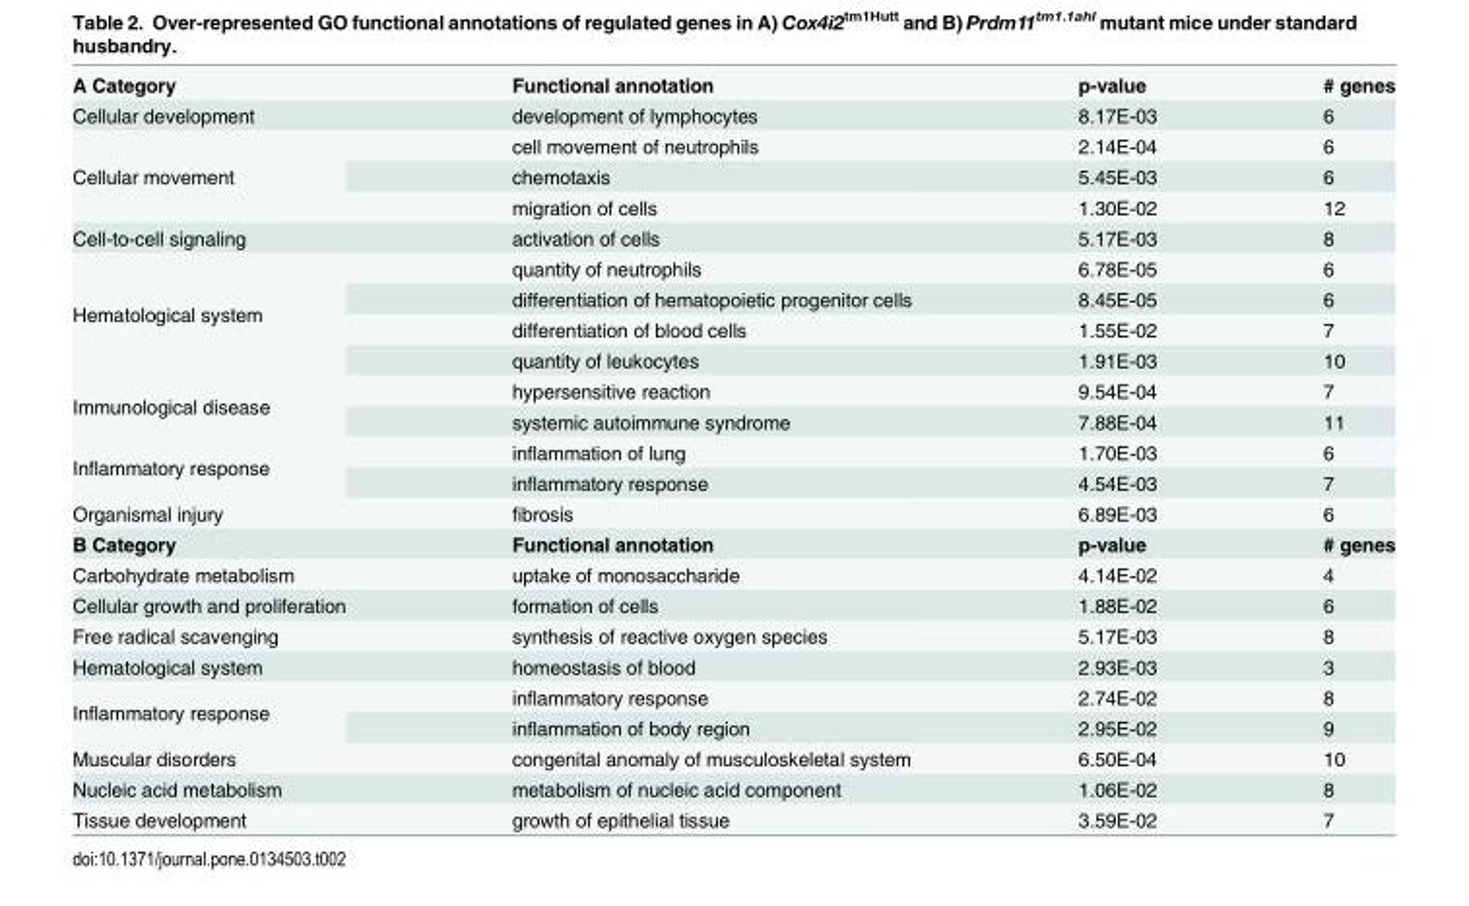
<table><tbody><tr><td>A Category</td><td>Functional annotation</td><td>p-value</td><td># genes</td></tr><tr><td>Cellular development</td><td>development of lymphocytes</td><td>8.17E-03</td><td>6</td></tr><tr><td rowspan="3">Cellular movement</td><td>cell movement of neutrophils</td><td>2.14E-04</td><td>6</td></tr><tr><td>chemotaxis</td><td>5.45E-03</td><td>6</td></tr><tr><td>migration of cells</td><td>1.30E-02</td><td>12</td></tr><tr><td>Cell-to-cell signaling</td><td>activation of cells</td><td>5.17E-03</td><td>8</td></tr><tr><td rowspan="4">Hematological system</td><td>quantity of neutrophils</td><td>6.78E-05</td><td>6</td></tr><tr><td>differentiation of hematopoietic progenitor cells</td><td>8.45E-05</td><td>6</td></tr><tr><td>differentiation of blood cells</td><td>1.55E-02</td><td>7</td></tr><tr><td>quantity of leukocytes</td><td>1.91E-03</td><td>10</td></tr><tr><td rowspan="2">Immunological disease</td><td>hypersensitive reaction</td><td>9.54E-04</td><td>7</td></tr><tr><td>systemic autoimmune syndrome</td><td>7.88E-04</td><td>11</td></tr><tr><td rowspan="2">Inflammatory response</td><td>inflammation of lung</td><td>1.70E-03</td><td>6</td></tr><tr><td>inflammatory response</td><td>4.54E-03</td><td>7</td></tr><tr><td>Organismal injury</td><td>fibrosis</td><td>6.89E-03</td><td>6</td></tr><tr><td>B Category</td><td>Functional annotation</td><td>p-value</td><td># genes</td></tr><tr><td>Carbohydrate metabolism</td><td>uptake of monosaccharide</td><td>4.14E-02</td><td>4</td></tr><tr><td>Cellular growth and proliferation</td><td>formation of cells</td><td>1.88E-02</td><td>6</td></tr><tr><td>Free radical scavenging</td><td>synthesis of reactive oxygen species</td><td>5.17E-03</td><td>8</td></tr><tr><td>Hematological system</td><td>homeostasis of blood</td><td>2.93E-03</td><td>3</td></tr><tr><td rowspan="2">Inflammatory response</td><td>inflammatory response</td><td>2.74E-02</td><td>8</td></tr><tr><td>inflammation of body region</td><td>2.95E-02</td><td>9</td></tr><tr><td>Muscular disorders</td><td>congenital anomaly of musculoskeletal system</td><td>6.50E-04</td><td>10</td></tr><tr><td>Nucleic acid metabolism</td><td>metabolism of nucleic acid component</td><td>1.06E-02</td><td>8</td></tr><tr><td>Tissue development</td><td>growth of epithelial tissue</td><td>3.59E-02</td><td>7</td></tr></tbody></table>